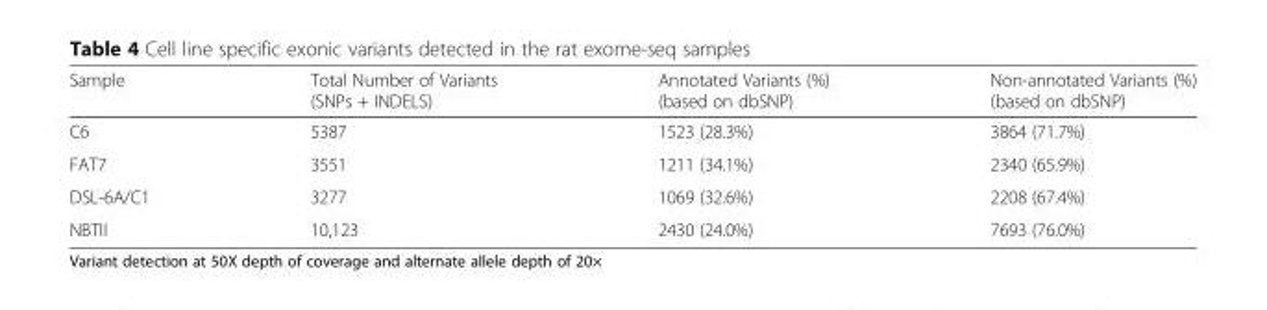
<table><thead><tr><td>Sample</td><td>Total Number of Variants (SNPs + INDELS)</td><td>Annotated Variants (%) (based on dbSNP)</td><td>Non-annotated Variants (%) (based on dbSNP)</td></tr></thead><tbody><tr><td>C6</td><td>5387</td><td>1523 (28.3%)</td><td>3864 (71.7%)</td></tr><tr><td>FAT7</td><td>3551</td><td>1211 (34.1%)</td><td>2340 (65.9%)</td></tr><tr><td>DSL-6A/C1</td><td>3277</td><td>1069 (32.6%)</td><td>2208 (67.4%)</td></tr><tr><td>NBTII</td><td>10,123</td><td>2430 (24.0%)</td><td>7693 (76.0%)</td></tr></tbody></table>